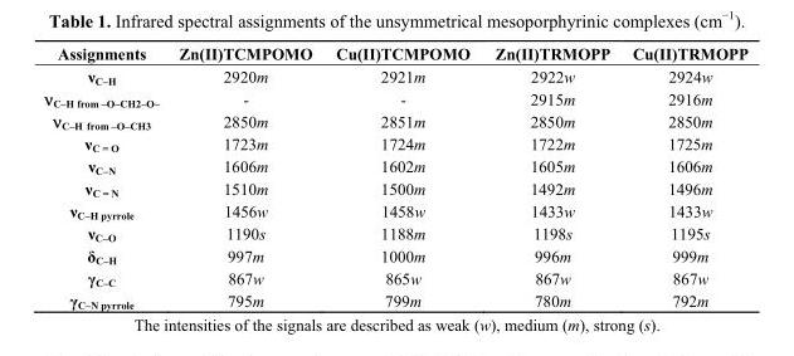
<table><thead><tr><td>Assignments</td><td>Zn(II)TCMPOMO</td><td>Cu(II)TCMPOMO</td><td>Zn(II)TRMOPP</td><td>Cu(II)TRMOPP</td></tr></thead><tbody><tr><td>ν<sub>C–H</sub></td><td>2920m</td><td>2921m</td><td>2922w</td><td>2924w</td></tr><tr><td>ν<sub>C–H from –O–CH2–O–</sub></td><td>-</td><td>-</td><td>2915m</td><td>2916m</td></tr><tr><td>ν<sub>C–H from –O–CH3</sub></td><td>2850m</td><td>2851m</td><td>2850m</td><td>2850m</td></tr><tr><td>ν<sub>C = O</sub></td><td>1723m</td><td>1724m</td><td>1722m</td><td>1725m</td></tr><tr><td>ν<sub>C–N</sub></td><td>1606m</td><td>1602m</td><td>1605m</td><td>1606m</td></tr><tr><td>ν<sub>C = N</sub></td><td>1510m</td><td>1500m</td><td>1492m</td><td>1496m</td></tr><tr><td>ν<sub>C–H pyrrole</sub></td><td>1456w</td><td>1458w</td><td>1433w</td><td>1433w</td></tr><tr><td>ν<sub>C–O</sub></td><td>1190s</td><td>1188m</td><td>1198s</td><td>1195s</td></tr><tr><td>δ<sub>C–H</sub></td><td>997m</td><td>1000m</td><td>996m</td><td>999m</td></tr><tr><td>γ<sub>C–C</sub></td><td>867w</td><td>865w</td><td>867w</td><td>867w</td></tr><tr><td>γ<sub>C–N pyrrole</sub></td><td>795m</td><td>799m</td><td>780m</td><td>792m</td></tr></tbody></table>